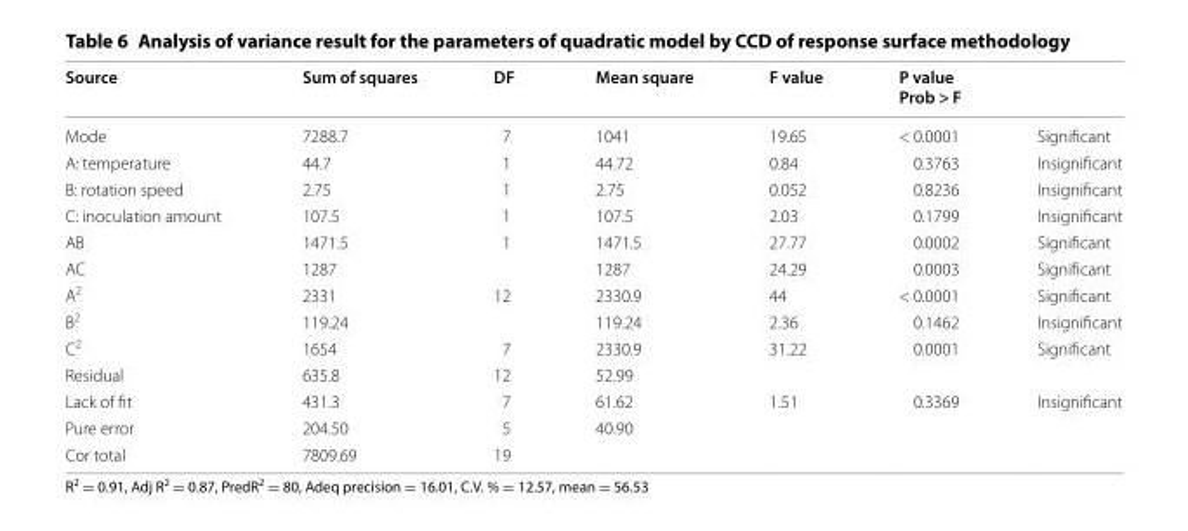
<table><thead><tr><td>Source</td><td>Sum of squares</td><td>DF</td><td>Mean square</td><td>F value</td><td>P value Prob &gt; F</td><td></td></tr></thead><tbody><tr><td>Mode</td><td>7288.7</td><td>7</td><td>1041</td><td>19.65</td><td>&lt; 0.0001</td><td>Significant</td></tr><tr><td>A: temperature</td><td>44.7</td><td>1</td><td>44.72</td><td>0.84</td><td>0.3763</td><td>Insignificant</td></tr><tr><td>B: rotation speed</td><td>2.75</td><td>1</td><td>2.75</td><td>0.052</td><td>0.8236</td><td>Insignificant</td></tr><tr><td>C: inoculation amount</td><td>107.5</td><td>1</td><td>107.5</td><td>2.03</td><td>0.1799</td><td>Insignificant</td></tr><tr><td>AB</td><td>1471.5</td><td>1</td><td>1471.5</td><td>27.77</td><td>0.0002</td><td>Significant</td></tr><tr><td>AC</td><td>1287</td><td></td><td>1287</td><td>24.29</td><td>0.0003</td><td>Significant</td></tr><tr><td>A<sup>2</sup></td><td>2331</td><td>12</td><td>2330.9</td><td>44</td><td>&lt; 0.0001</td><td>Significant</td></tr><tr><td>B<sup>2</sup></td><td>119.24</td><td></td><td>119.24</td><td>2.36</td><td>0.1462</td><td>Insignificant</td></tr><tr><td>C<sup>2</sup></td><td>1654</td><td>7</td><td>2330.9</td><td>31.22</td><td>0.0001</td><td>Significant</td></tr><tr><td>Residual</td><td>635.8</td><td>12</td><td>52.99</td><td></td><td></td><td></td></tr><tr><td>Lack of fit</td><td>431.3</td><td>7</td><td>61.62</td><td>1.51</td><td>0.3369</td><td>Insignificant</td></tr><tr><td>Pure error</td><td>204.50</td><td>5</td><td>40.90</td><td></td><td></td><td></td></tr><tr><td>Cor total</td><td>7809.69</td><td>19</td><td></td><td></td><td></td><td></td></tr></tbody></table>